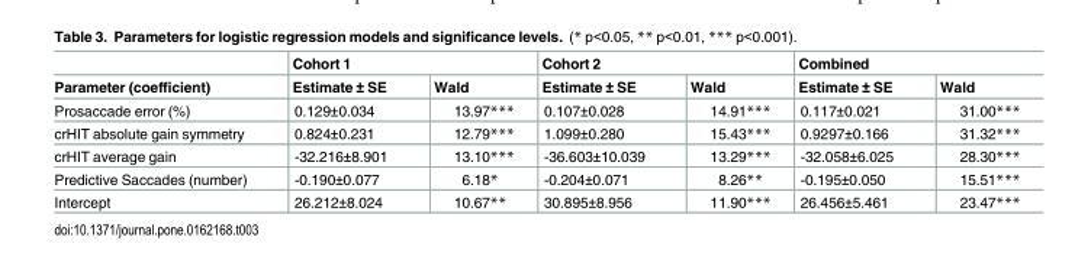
<table><thead><tr><td rowspan="2">Parameter (coefficient)</td><td colspan="2">Cohort 1</td><td colspan="2">Cohort 2</td><td colspan="2">Combined</td></tr><tr><td>Estimate ± SE</td><td>Wald</td><td>Estimate ± SE</td><td>Wald</td><td>Estimate ± SE</td><td>Wald</td></tr></thead><tbody><tr><td>Prosaccade error (%)</td><td>0.129±0.034</td><td>13.97***</td><td>0.107±0.028</td><td>14.91***</td><td>0.117±0.021</td><td>31.00***</td></tr><tr><td>crHIT absolute gain symmetry</td><td>0.824±0.231</td><td>12.79***</td><td>1.099±0.280</td><td>15.43***</td><td>0.9297±0.166</td><td>31.32***</td></tr><tr><td>crHIT average gain</td><td>-32.216±8.901</td><td>13.10***</td><td>-36.603±10.039</td><td>13.29***</td><td>-32.058±6.025</td><td>28.30***</td></tr><tr><td>Predictive Saccades (number)</td><td>-0.190±0.077</td><td>6.18*</td><td>-0.204±0.071</td><td>8.26**</td><td>-0.195±0.050</td><td>15.51***</td></tr><tr><td>Intercept</td><td>26.212±8.024</td><td>10.67**</td><td>30.895±8.956</td><td>11.90***</td><td>26.456±5.461</td><td>23.47***</td></tr></tbody></table>